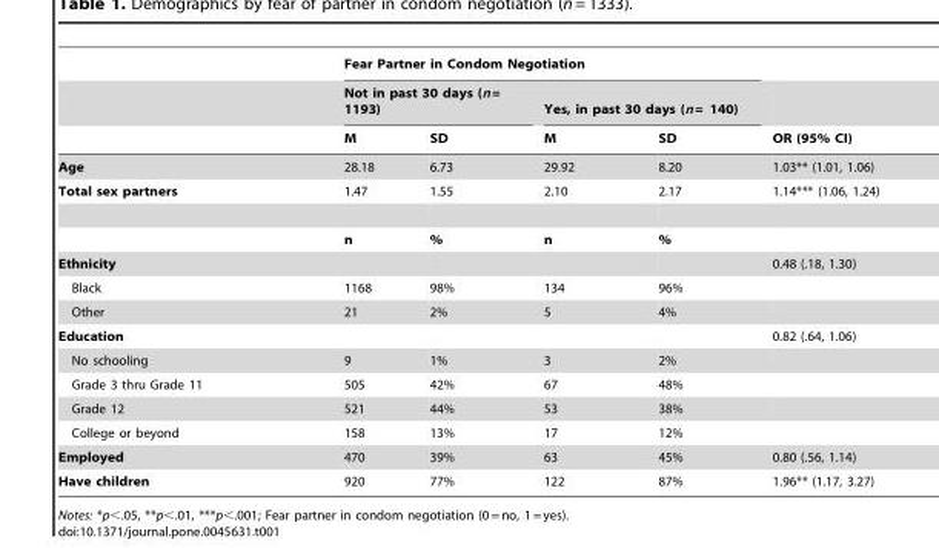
<table><thead><tr><td rowspan="3"></td><td colspan="4">Fear Partner in Condom Negotiation</td><td rowspan="3">OR (95% CI)</td></tr><tr><td colspan="2">Not in past 30 days (n = 1193)</td><td colspan="2">Yes, in past 30 days (n = 140)</td></tr><tr><td>M</td><td>SD</td><td>M</td><td>SD</td></tr></thead><tbody><tr><td>Age</td><td>28.18</td><td>6.73</td><td>29.92</td><td>8.20</td><td>1.03** (1.01, 1.06)</td></tr><tr><td rowspan="2">Total sex partners</td><td>1.47</td><td>1.55</td><td>2.10</td><td>2.17</td><td>1.14*** (1.06, 1.24)</td></tr><tr><td>n</td><td>%</td><td>n</td><td>%</td><td></td></tr><tr><td>Ethnicity</td><td></td><td></td><td></td><td></td><td>0.48 (.18, 1.30)</td></tr><tr><td>Black</td><td>1168</td><td>98%</td><td>134</td><td>96%</td><td></td></tr><tr><td>Other</td><td>21</td><td>2%</td><td>5</td><td>4%</td><td></td></tr><tr><td>Education</td><td></td><td></td><td></td><td></td><td>0.82 (.64, 1.06)</td></tr><tr><td>No schooling</td><td>9</td><td>1%</td><td>3</td><td>2%</td><td></td></tr><tr><td>Grade 3 thru Grade 11</td><td>505</td><td>42%</td><td>67</td><td>48%</td><td></td></tr><tr><td>Grade 12</td><td>521</td><td>44%</td><td>53</td><td>38%</td><td></td></tr><tr><td>College or beyond</td><td>158</td><td>13%</td><td>17</td><td>12%</td><td></td></tr><tr><td>Employed</td><td>470</td><td>39%</td><td>63</td><td>45%</td><td>0.80 (.56, 1.14)</td></tr><tr><td>Have children</td><td>920</td><td>77%</td><td>122</td><td>87%</td><td>1.96** (1.17, 3.27)</td></tr></tbody></table>